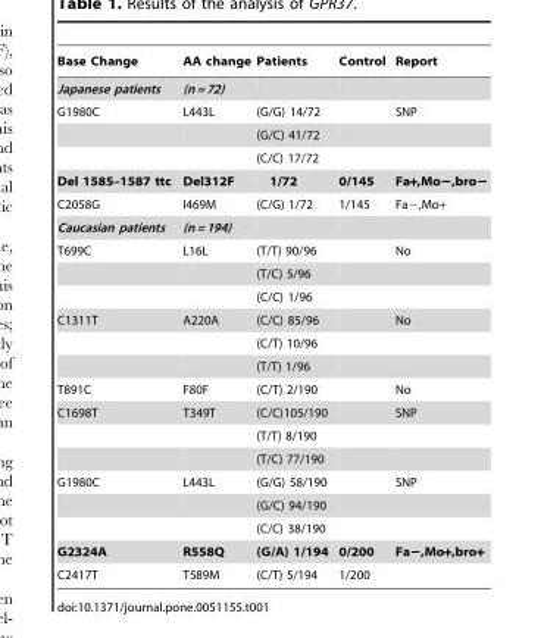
<table><thead><tr><td>Base Change</td><td>AA change</td><td>Patients</td><td>Control</td><td>Report</td></tr></thead><tbody><tr><td>Japanese patients</td><td>(n = 72)</td><td></td><td></td><td></td></tr><tr><td rowspan="3">G1980C</td><td>L443L</td><td>(G/G) 14/72</td><td></td><td>SNP</td></tr><tr><td></td><td>(G/C) 41/72</td><td></td><td></td></tr><tr><td></td><td>(C/C) 17/72</td><td></td><td></td></tr><tr><td>Del 1585–1587 ttc</td><td>Del312F</td><td>1/72</td><td>0/145</td><td>Fa+,Mo−,bro−</td></tr><tr><td>C2058G</td><td>I469M</td><td>(C/G) 1/72</td><td>1/145</td><td>Fa−,Mo+</td></tr><tr><td>Caucasian patients</td><td>(n = 194)</td><td></td><td></td><td></td></tr><tr><td rowspan="3">T699C</td><td>L16L</td><td>(T/T) 90/96</td><td></td><td>No</td></tr><tr><td></td><td>(T/C) 5/96</td><td></td><td></td></tr><tr><td></td><td>(C/C) 1/96</td><td></td><td></td></tr><tr><td rowspan="3">C1311T</td><td>A220A</td><td>(C/C) 85/96</td><td></td><td>No</td></tr><tr><td></td><td>(C/T) 10/96</td><td></td><td></td></tr><tr><td></td><td>(T/T) 1/96</td><td></td><td></td></tr><tr><td>T891C</td><td>F80F</td><td>(C/T) 2/190</td><td></td><td>No</td></tr><tr><td rowspan="3">C1698T</td><td>T349T</td><td>(C/C)105/190</td><td></td><td>SNP</td></tr><tr><td></td><td>(T/T) 8/190</td><td></td><td></td></tr><tr><td></td><td>(T/C) 77/190</td><td></td><td></td></tr><tr><td rowspan="3">G1980C</td><td>L443L</td><td>(G/G) 58/190</td><td></td><td>SNP</td></tr><tr><td></td><td>(G/C) 94/190</td><td></td><td></td></tr><tr><td></td><td>(C/C) 38/190</td><td></td><td></td></tr><tr><td>G2324A</td><td>R558Q</td><td>(G/A) 1/194</td><td>0/200</td><td>Fa−,Mo+,bro+</td></tr><tr><td>C2417T</td><td>T589M</td><td>(C/T) 5/194</td><td>1/200</td><td></td></tr></tbody></table>